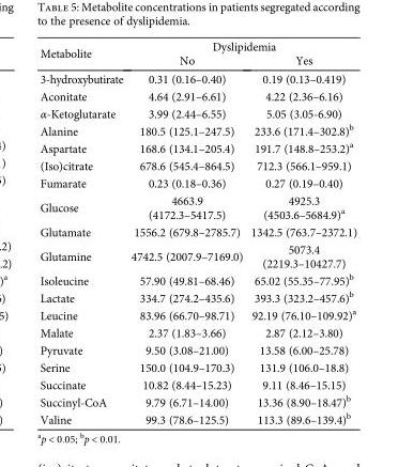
<table><thead><tr><td rowspan="2">Metabolite</td><td colspan="2">Dyslipidemia</td></tr><tr><td>No</td><td>Yes</td></tr></thead><tbody><tr><td>3-hydroxybutirate</td><td>0.31 (0.16–0.40)</td><td>0.19 (0.13–0.419)</td></tr><tr><td>Aconitate</td><td>4.64 (2.91–6.61)</td><td>4.22 (2.36–6.16)</td></tr><tr><td>α-Ketoglutarate</td><td>3.99 (2.44–6.55)</td><td>5.05 (3.05-6.90)</td></tr><tr><td>Alanine</td><td>180.5 (125.1–247.5)</td><td>233.6 (171.4–302.8)<sup>b</sup></td></tr><tr><td>Aspartate</td><td>168.6 (134.1–205.4)</td><td>191.7 (148.8–253.2)<sup>a</sup></td></tr><tr><td>(Iso)citrate</td><td>678.6 (545.4–864.5)</td><td>712.3 (566.1–959.1)</td></tr><tr><td>Fumarate</td><td>0.23 (0.18–0.36)</td><td>0.27 (0.19–0.40)</td></tr><tr><td>Glucose</td><td>4663.9 (4172.3–5417.5)</td><td>4925.3 (4503.6–5684.9)<sup>a</sup></td></tr><tr><td>Glutamate</td><td>1556.2 (679.8–2785.7)</td><td>1342.5 (763.7–2372.1)</td></tr><tr><td>Glutamine</td><td>4742.5 (2007.9–7169.0)</td><td>5073.4 (2219.3–10427.7)</td></tr><tr><td>Isoleucine</td><td>57.90 (49.81–68.46)</td><td>65.02 (55.35–77.95)<sup>b</sup></td></tr><tr><td>Lactate</td><td>334.7 (274.2–435.6)</td><td>393.3 (323.2–457.6)<sup>b</sup></td></tr><tr><td>Leucine</td><td>83.96 (66.70–98.71)</td><td>92.19 (76.10–109.92)<sup>a</sup></td></tr><tr><td>Malate</td><td>2.37 (1.83–3.66)</td><td>2.87 (2.12–3.80)</td></tr><tr><td>Pyruvate</td><td>9.50 (3.08–21.00)</td><td>13.58 (6.00–25.78)</td></tr><tr><td>Serine</td><td>150.0 (104.9–170.3)</td><td>131.9 (106.0–18.8)</td></tr><tr><td>Succinate</td><td>10.82 (8.44–15.23)</td><td>9.11 (8.46–15.15)</td></tr><tr><td>Succinyl-CoA</td><td>9.79 (6.71–14.00)</td><td>13.36 (8.90–18.47)<sup>b</sup></td></tr><tr><td>Valine</td><td>99.3 (78.6–125.5)</td><td>113.3 (89.6–139.4)<sup>b</sup></td></tr></tbody></table>